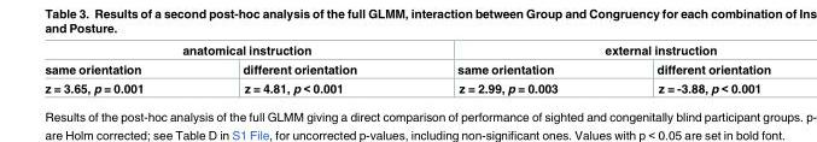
<table><thead><tr><td colspan="2">anatomical instruction</td><td colspan="2">external instruction</td></tr><tr><td>same orientation</td><td>different orientation</td><td>same orientation</td><td>different orientation</td></tr></thead><tbody><tr><td>z = 3.65, p = 0.001</td><td>z = 4.81, p &lt; 0.001</td><td>z = 2.99, p = 0.003</td><td>z = -3.88, p &lt; 0.001</td></tr></tbody></table>